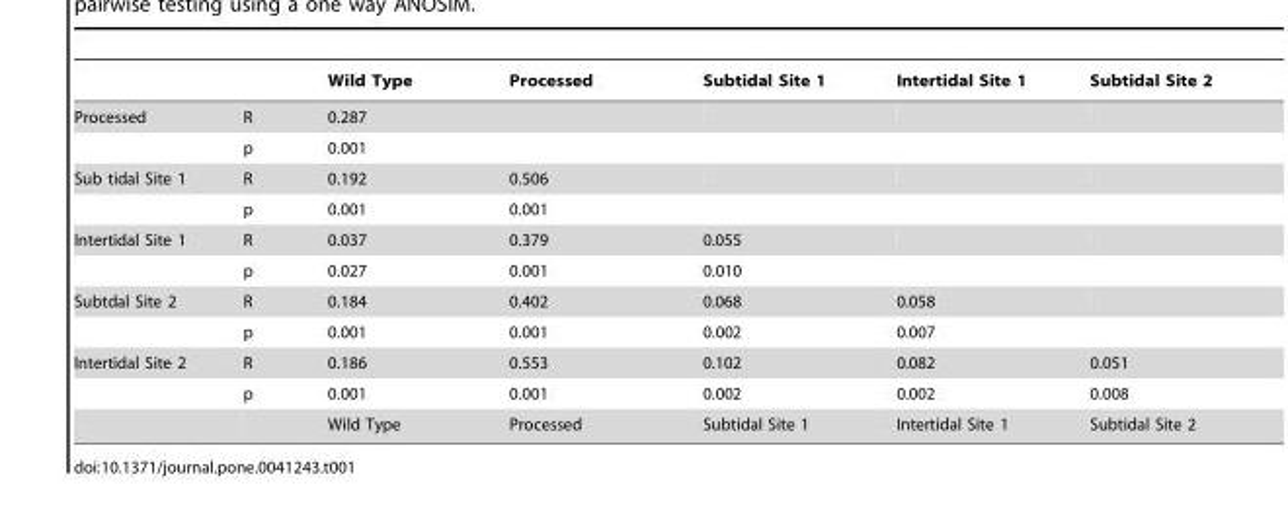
<table><thead><tr><td></td><td></td><td>Wild Type</td><td>Processed</td><td>Subtidal Site 1</td><td>Intertidal Site 1</td><td>Subtidal Site 2</td></tr></thead><tbody><tr><td rowspan="2">Processed</td><td>R</td><td>0.287</td><td></td><td></td><td></td><td></td></tr><tr><td>p</td><td>0.001</td><td></td><td></td><td></td><td></td></tr><tr><td rowspan="2">Sub tidal Site 1</td><td>R</td><td>0.192</td><td>0.506</td><td></td><td></td><td></td></tr><tr><td>p</td><td>0.001</td><td>0.001</td><td></td><td></td><td></td></tr><tr><td rowspan="2">Intertidal Site 1</td><td>R</td><td>0.037</td><td>0.379</td><td>0.055</td><td></td><td></td></tr><tr><td>p</td><td>0.027</td><td>0.001</td><td>0.010</td><td></td><td></td></tr><tr><td rowspan="2">Subtdal Site 2</td><td>R</td><td>0.184</td><td>0.402</td><td>0.068</td><td>0.058</td><td></td></tr><tr><td>p</td><td>0.001</td><td>0.001</td><td>0.002</td><td>0.007</td><td></td></tr><tr><td rowspan="3">Intertidal Site 2</td><td>R</td><td>0.186</td><td>0.553</td><td>0.102</td><td>0.082</td><td>0.051</td></tr><tr><td>p</td><td>0.001</td><td>0.001</td><td>0.002</td><td>0.002</td><td>0.008</td></tr><tr><td></td><td>Wild Type</td><td>Processed</td><td>Subtidal Site 1</td><td>Intertidal Site 1</td><td>Subtidal Site 2</td></tr></tbody></table>